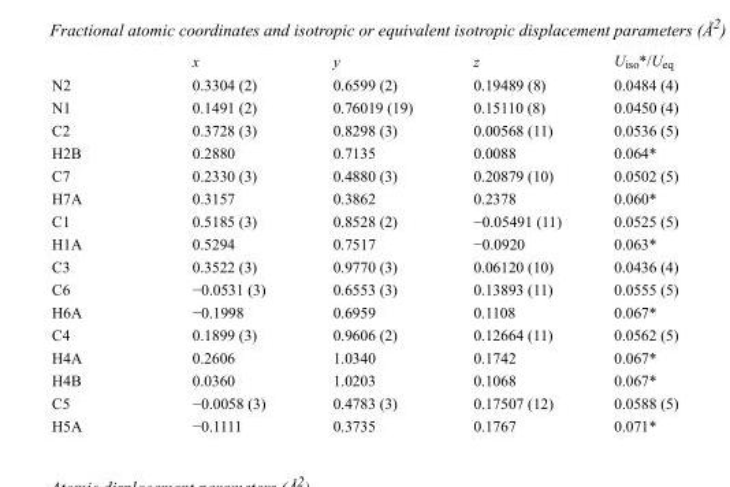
<table><thead><tr><td></td><td>x</td><td>y</td><td>z</td><td>U<sub>iso</sub>*/U<sub>eq</sub></td></tr></thead><tbody><tr><td>N2</td><td>0.3304 (2)</td><td>0.6599 (2)</td><td>0.19489 (8)</td><td>0.0484 (4)</td></tr><tr><td>N1</td><td>0.1491 (2)</td><td>0.76019 (19)</td><td>0.15110 (8)</td><td>0.0450 (4)</td></tr><tr><td>C2</td><td>0.3728 (3)</td><td>0.8298 (3)</td><td>0.00568 (11)</td><td>0.0536 (5)</td></tr><tr><td>H2B</td><td>0.2880</td><td>0.7135</td><td>0.0088</td><td>0.064*</td></tr><tr><td>C7</td><td>0.2330 (3)</td><td>0.4880 (3)</td><td>0.20879 (10)</td><td>0.0502 (5)</td></tr><tr><td>H7A</td><td>0.3157</td><td>0.3862</td><td>0.2378</td><td>0.060*</td></tr><tr><td>C1</td><td>0.5185 (3)</td><td>0.8528 (2)</td><td>−0.05491 (11)</td><td>0.0525 (5)</td></tr><tr><td>H1A</td><td>0.5294</td><td>0.7517</td><td>−0.0920</td><td>0.063*</td></tr><tr><td>C3</td><td>0.3522 (3)</td><td>0.9770 (3)</td><td>0.06120 (10)</td><td>0.0436 (4)</td></tr><tr><td>C6</td><td>−0.0531 (3)</td><td>0.6553 (3)</td><td>0.13893 (11)</td><td>0.0555 (5)</td></tr><tr><td>H6A</td><td>−0.1998</td><td>0.6959</td><td>0.1108</td><td>0.067*</td></tr><tr><td>C4</td><td>0.1899 (3)</td><td>0.9606 (2)</td><td>0.12664 (11)</td><td>0.0562 (5)</td></tr><tr><td>H4A</td><td>0.2606</td><td>1.0340</td><td>0.1742</td><td>0.067*</td></tr><tr><td>H4B</td><td>0.0360</td><td>1.0203</td><td>0.1068</td><td>0.067*</td></tr><tr><td>C5</td><td>−0.0058 (3)</td><td>0.4783 (3)</td><td>0.17507 (12)</td><td>0.0588 (5)</td></tr><tr><td>H5A</td><td>−0.1111</td><td>0.3735</td><td>0.1767</td><td>0.071*</td></tr></tbody></table>